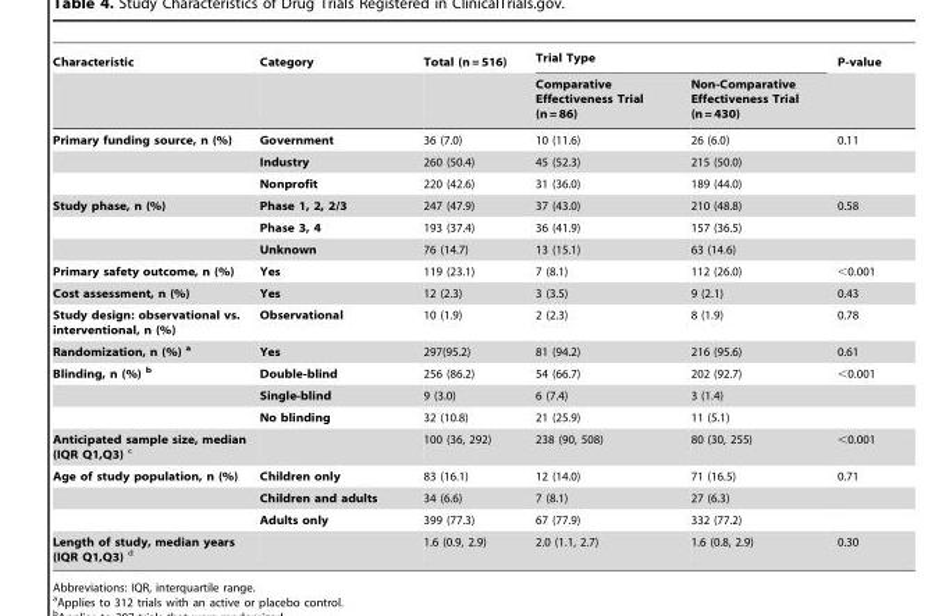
<table><thead><tr><td rowspan="2">Characteristic</td><td rowspan="2">Category</td><td rowspan="2">Total (n = 516)</td><td colspan="2">Trial Type</td><td rowspan="2">P-value</td></tr><tr><td>Comparative Effectiveness Trial (n = 86)</td><td>Non-Comparative Effectiveness Trial (n = 430)</td></tr></thead><tbody><tr><td rowspan="3">Primary funding source, n (%)</td><td>Government</td><td>36 (7.0)</td><td>10 (11.6)</td><td>26 (6.0)</td><td>0.11</td></tr><tr><td>Industry</td><td>260 (50.4)</td><td>45 (52.3)</td><td>215 (50.0)</td><td></td></tr><tr><td>Nonprofit</td><td>220 (42.6)</td><td>31 (36.0)</td><td>189 (44.0)</td><td></td></tr><tr><td rowspan="3">Study phase, n (%)</td><td>Phase 1, 2, 2/3</td><td>247 (47.9)</td><td>37 (43.0)</td><td>210 (48.8)</td><td>0.58</td></tr><tr><td>Phase 3, 4</td><td>193 (37.4)</td><td>36 (41.9)</td><td>157 (36.5)</td><td></td></tr><tr><td>Unknown</td><td>76 (14.7)</td><td>13 (15.1)</td><td>63 (14.6)</td><td></td></tr><tr><td>Primary safety outcome, n (%)</td><td>Yes</td><td>119 (23.1)</td><td>7 (8.1)</td><td>112 (26.0)</td><td>&lt;0.001</td></tr><tr><td>Cost assessment, n (%)</td><td>Yes</td><td>12 (2.3)</td><td>3 (3.5)</td><td>9 (2.1)</td><td>0.43</td></tr><tr><td>Study design: observational vs. interventional, n (%)</td><td>Observational</td><td>10 (1.9)</td><td>2 (2.3)</td><td>8 (1.9)</td><td>0.78</td></tr><tr><td>Randomization, n (%) a</td><td>Yes</td><td>297(95.2)</td><td>81 (94.2)</td><td>216 (95.6)</td><td>0.61</td></tr><tr><td rowspan="3">Blinding, n (%) b</td><td>Double-blind</td><td>256 (86.2)</td><td>54 (66.7)</td><td>202 (92.7)</td><td>&lt;0.001</td></tr><tr><td>Single-blind</td><td>9 (3.0)</td><td>6 (7.4)</td><td>3 (1.4)</td><td></td></tr><tr><td>No blinding</td><td>32 (10.8)</td><td>21 (25.9)</td><td>11 (5.1)</td><td></td></tr><tr><td>Anticipated sample size, median (IQR Q1,Q3) c</td><td></td><td>100 (36, 292)</td><td>238 (90, 508)</td><td>80 (30, 255)</td><td>&lt;0.001</td></tr><tr><td rowspan="3">Age of study population, n (%)</td><td>Children only</td><td>83 (16.1)</td><td>12 (14.0)</td><td>71 (16.5)</td><td>0.71</td></tr><tr><td>Children and adults</td><td>34 (6.6)</td><td>7 (8.1)</td><td>27 (6.3)</td><td></td></tr><tr><td>Adults only</td><td>399 (77.3)</td><td>67 (77.9)</td><td>332 (77.2)</td><td></td></tr><tr><td>Length of study, median years (IQR Q1,Q3) d</td><td></td><td>1.6 (0.9, 2.9)</td><td>2.0 (1.1, 2.7)</td><td>1.6 (0.8, 2.9)</td><td>0.30</td></tr></tbody></table>